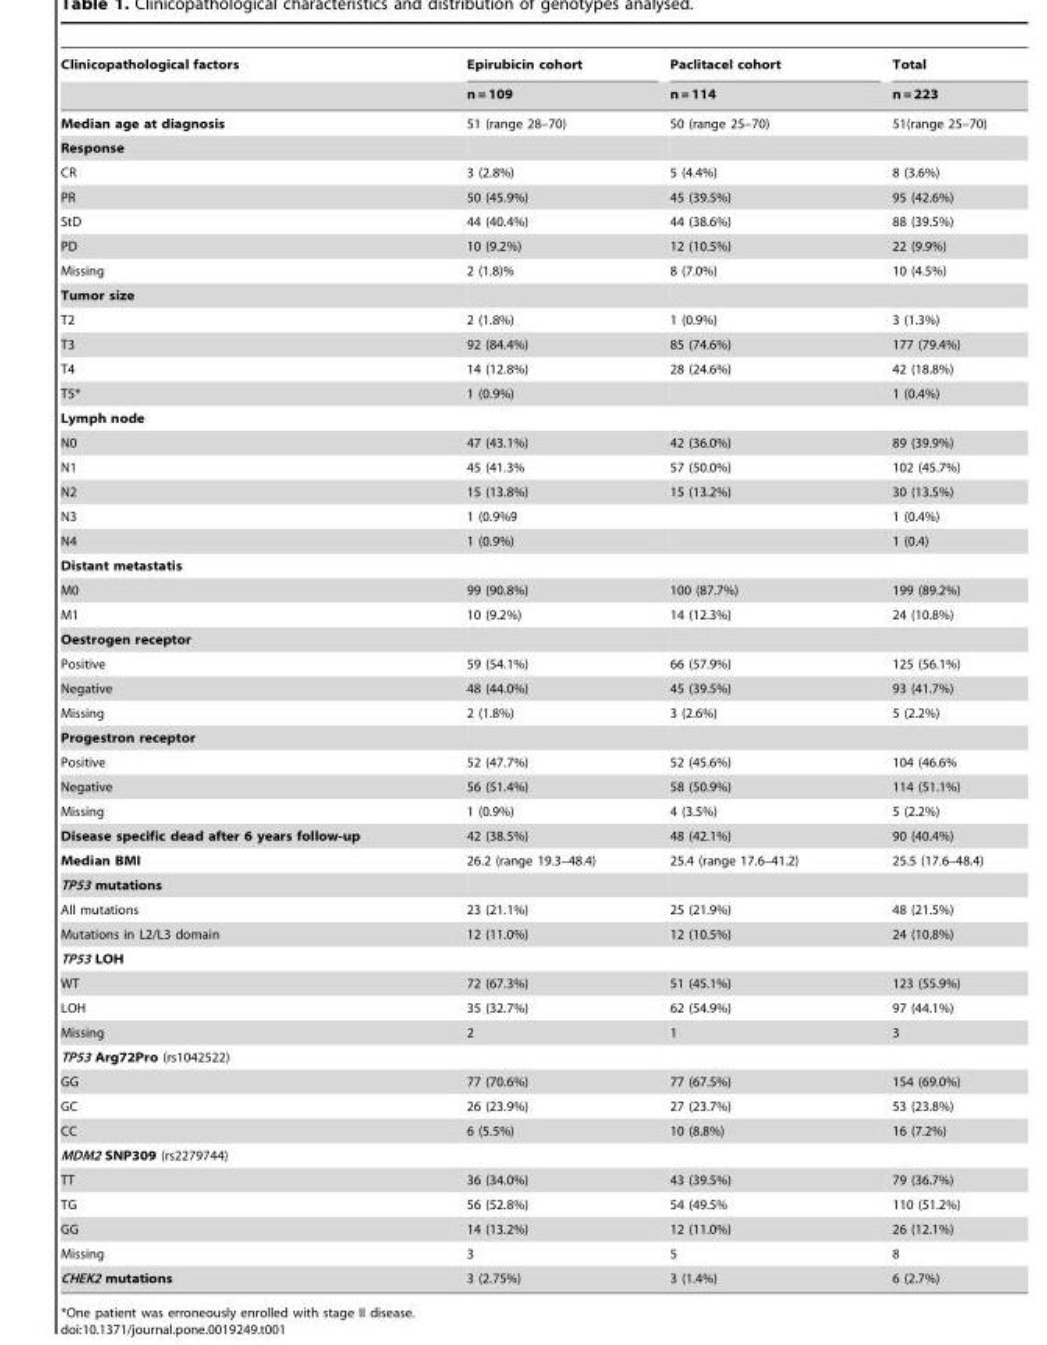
<table><thead><tr><td rowspan="2">Clinicopathological factors</td><td rowspan="2">Epirubicin cohort n = 109</td><td rowspan="2">Paclitacel cohort n = 114</td><td rowspan="2">Total n = 223</td></tr><tr></tr></thead><tbody><tr><td>Median age at diagnosis</td><td>51 (range 28–70)</td><td>50 (range 25–70)</td><td>51(range 25–70)</td></tr><tr><td colspan="4">Response</td></tr><tr><td>CR</td><td>3 (2.8%)</td><td>5 (4.4%)</td><td>8 (3.6%)</td></tr><tr><td>PR</td><td>50 (45.9%)</td><td>45 (39.5%)</td><td>95 (42.6%)</td></tr><tr><td>StD</td><td>44 (40.4%)</td><td>44 (38.6%)</td><td>88 (39.5%)</td></tr><tr><td>PD</td><td>10 (9.2%)</td><td>12 (10.5%)</td><td>22 (9.9%)</td></tr><tr><td>Missing</td><td>2 (1.8)%</td><td>8 (7.0%)</td><td>10 (4.5%)</td></tr><tr><td colspan="4">Tumor size</td></tr><tr><td>T2</td><td>2 (1.8%)</td><td>1 (0.9%)</td><td>3 (1.3%)</td></tr><tr><td>T3</td><td>92 (84.4%)</td><td>85 (74.6%)</td><td>177 (79.4%)</td></tr><tr><td>T4</td><td>14 (12.8%)</td><td>28 (24.6%)</td><td>42 (18.8%)</td></tr><tr><td>T5*</td><td>1 (0.9%)</td><td></td><td>1 (0.4%)</td></tr><tr><td colspan="4">Lymph node</td></tr><tr><td>N0</td><td>47 (43.1%)</td><td>42 (36.0%)</td><td>89 (39.9%)</td></tr><tr><td>N1</td><td>45 (41.3%</td><td>57 (50.0%)</td><td>102 (45.7%)</td></tr><tr><td>N2</td><td>15 (13.8%)</td><td>15 (13.2%)</td><td>30 (13.5%)</td></tr><tr><td>N3</td><td>1 (0.9%9</td><td></td><td>1 (0.4%)</td></tr><tr><td>N4</td><td>1 (0.9%)</td><td></td><td>1 (0.4)</td></tr><tr><td colspan="4">Distant metastatis</td></tr><tr><td>M0</td><td>99 (90.8%)</td><td>100 (87.7%)</td><td>199 (89.2%)</td></tr><tr><td>M1</td><td>10 (9.2%)</td><td>14 (12.3%)</td><td>24 (10.8%)</td></tr><tr><td colspan="4">Oestrogen receptor</td></tr><tr><td>Positive</td><td>59 (54.1%)</td><td>66 (57.9%)</td><td>125 (56.1%)</td></tr><tr><td>Negative</td><td>48 (44.0%)</td><td>45 (39.5%)</td><td>93 (41.7%)</td></tr><tr><td>Missing</td><td>2 (1.8%)</td><td>3 (2.6%)</td><td>5 (2.2%)</td></tr><tr><td colspan="4">Progestron receptor</td></tr><tr><td>Positive</td><td>52 (47.7%)</td><td>52 (45.6%)</td><td>104 (46.6%</td></tr><tr><td>Negative</td><td>56 (51.4%)</td><td>58 (50.9%)</td><td>114 (51.1%)</td></tr><tr><td>Missing</td><td>1 (0.9%)</td><td>4 (3.5%)</td><td>5 (2.2%)</td></tr><tr><td>Disease specific dead after 6 years follow-up</td><td>42 (38.5%)</td><td>48 (42.1%)</td><td>90 (40.4%)</td></tr><tr><td>Median BMI</td><td>26.2 (range 19.3–48.4)</td><td>25.4 (range 17.6–41.2)</td><td>25.5 (17.6–48.4)</td></tr><tr><td colspan="4">TP53 mutations</td></tr><tr><td>All mutations</td><td>23 (21.1%)</td><td>25 (21.9%)</td><td>48 (21.5%)</td></tr><tr><td>Mutations in L2/L3 domain</td><td>12 (11.0%)</td><td>12 (10.5%)</td><td>24 (10.8%)</td></tr><tr><td colspan="4">TP53 LOH</td></tr><tr><td>WT</td><td>72 (67.3%)</td><td>51 (45.1%)</td><td>123 (55.9%)</td></tr><tr><td>LOH</td><td>35 (32.7%)</td><td>62 (54.9%)</td><td>97 (44.1%)</td></tr><tr><td>Missing</td><td>2</td><td>1</td><td>3</td></tr><tr><td colspan="4">TP53 Arg72Pro (rs1042522)</td></tr><tr><td>GG</td><td>77 (70.6%)</td><td>77 (67.5%)</td><td>154 (69.0%)</td></tr><tr><td>GC</td><td>26 (23.9%)</td><td>27 (23.7%)</td><td>53 (23.8%)</td></tr><tr><td>CC</td><td>6 (5.5%)</td><td>10 (8.8%)</td><td>16 (7.2%)</td></tr><tr><td colspan="4">MDM2 SNP309 (rs2279744)</td></tr><tr><td>TT</td><td>36 (34.0%)</td><td>43 (39.5%)</td><td>79 (36.7%)</td></tr><tr><td>TG</td><td>56 (52.8%)</td><td>54 (49.5%</td><td>110 (51.2%)</td></tr><tr><td>GG</td><td>14 (13.2%)</td><td>12 (11.0%)</td><td>26 (12.1%)</td></tr><tr><td>Missing</td><td>3</td><td>5</td><td>8</td></tr><tr><td>CHEK2 mutations</td><td>3 (2.75%)</td><td>3 (1.4%)</td><td>6 (2.7%)</td></tr></tbody></table>